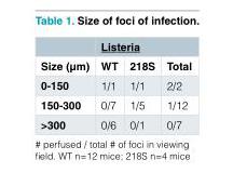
<table><thead><tr><td rowspan="2">Size (µm)</td><td colspan="3">Listeria</td></tr><tr><td>WT</td><td>218S</td><td>Total</td></tr></thead><tbody><tr><td>0-150</td><td>1/1</td><td>1/1</td><td>2/2</td></tr><tr><td>150-300</td><td>0/7</td><td>1/5</td><td>1/12</td></tr><tr><td>&gt;300</td><td>0/6</td><td>0/1</td><td>0/7</td></tr></tbody></table>